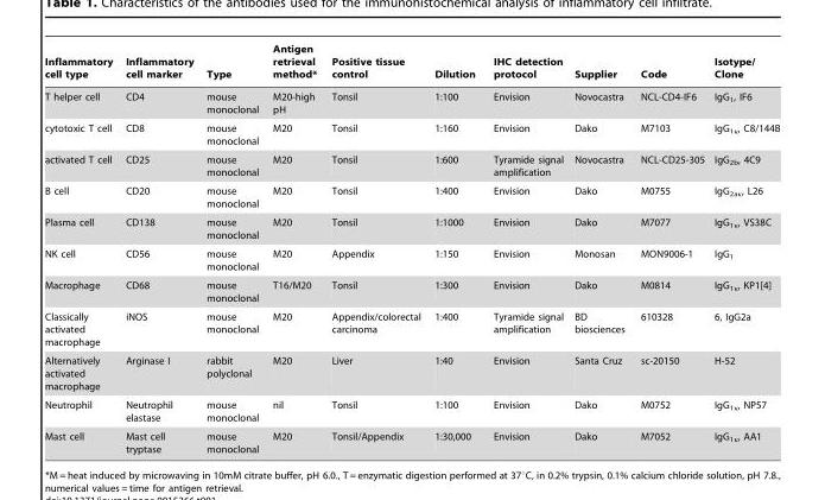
<table><thead><tr><td>Inflammatory cell type</td><td>Inflammatory cell marker</td><td>Type</td><td>Antigen retrieval method*</td><td>Positive tissue control</td><td>Dilution</td><td>IHC detection protocol</td><td>Supplier</td><td>Code</td><td>Isotype/ Clone</td></tr></thead><tbody><tr><td>T helper cell</td><td>CD4</td><td>mouse monoclonal</td><td>M20-high pH</td><td>Tonsil</td><td>1:100</td><td>Envision</td><td>Novocastra</td><td>NCL-CD4-IF6</td><td>IgG<sub>1</sub>, IF6</td></tr><tr><td>cytotoxic T cell</td><td>CD8</td><td>mouse monoclonal</td><td>M20</td><td>Tonsil</td><td>1:160</td><td>Envision</td><td>Dako</td><td>M7103</td><td>IgG<sub>1κ</sub>, C8/144B</td></tr><tr><td>activated T cell</td><td>CD25</td><td>mouse monoclonal</td><td>M20</td><td>Tonsil</td><td>1:600</td><td>Tyramide signal amplification</td><td>Novocastra</td><td>NCL-CD25-305</td><td>IgG<sub>2b</sub>, 4C9</td></tr><tr><td>B cell</td><td>CD20</td><td>mouse monoclonal</td><td>M20</td><td>Tonsil</td><td>1:400</td><td>Envision</td><td>Dako</td><td>M0755</td><td>IgG<sub>2aκ</sub>, L26</td></tr><tr><td>Plasma cell</td><td>CD138</td><td>mouse monoclonal</td><td>M20</td><td>Tonsil</td><td>1:1000</td><td>Envision</td><td>Dako</td><td>M7077</td><td>IgG<sub>1κ</sub>, VS38C</td></tr><tr><td>NK cell</td><td>CD56</td><td>mouse monoclonal</td><td>M20</td><td>Appendix</td><td>1:150</td><td>Envision</td><td>Monosan</td><td>MON9006-1</td><td>IgG<sub>1</sub></td></tr><tr><td>Macrophage</td><td>CD68</td><td>mouse monoclonal</td><td>T16/M20</td><td>Tonsil</td><td>1:300</td><td>Envision</td><td>Dako</td><td>M0814</td><td>IgG<sub>1κ</sub>, KP1[4]</td></tr><tr><td>Classically activated macrophage</td><td>iNOS</td><td>mouse monoclonal</td><td>M20</td><td>Appendix/colorectal carcinoma</td><td>1:400</td><td>Tyramide signal amplification</td><td>BD biosciences</td><td>610328</td><td>6, IgG2a</td></tr><tr><td>Alternatively activated macrophage</td><td>Arginase I</td><td>rabbit polyclonal</td><td>M20</td><td>Liver</td><td>1:40</td><td>Envision</td><td>Santa Cruz</td><td>sc-20150</td><td>H-52</td></tr><tr><td>Neutrophil</td><td>Neutrophil elastase</td><td>mouse monoclonal</td><td>nil</td><td>Tonsil</td><td>1:100</td><td>Envision</td><td>Dako</td><td>M0752</td><td>IgG<sub>1κ</sub>, NP57</td></tr><tr><td>Mast cell</td><td>Mast cell tryptase</td><td>mouse monoclonal</td><td>M20</td><td>Tonsil/Appendix</td><td>1:30,000</td><td>Envision</td><td>Dako</td><td>M7052</td><td>IgG<sub>1κ</sub>, AA1</td></tr></tbody></table>